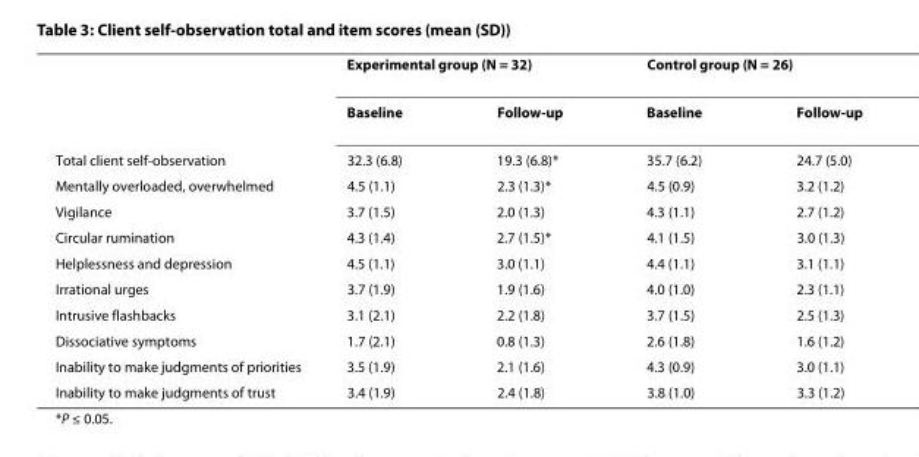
<table><thead><tr><td rowspan="2"></td><td colspan="2">Experimental group (N = 32)</td><td colspan="2">Control group (N = 26)</td></tr><tr><td>Baseline</td><td>Follow-up</td><td>Baseline</td><td>Follow-up</td></tr></thead><tbody><tr><td>Total client self-observation</td><td>32.3 (6.8)</td><td>19.3 (6.8)*</td><td>35.7 (6.2)</td><td>24.7 (5.0)</td></tr><tr><td>Mentally overloaded, overwhelmed</td><td>4.5 (1.1)</td><td>2.3 (1.3)*</td><td>4.5 (0.9)</td><td>3.2 (1.2)</td></tr><tr><td>Vigilance</td><td>3.7 (1.5)</td><td>2.0 (1.3)</td><td>4.3 (1.1)</td><td>2.7 (1.2)</td></tr><tr><td>Circular rumination</td><td>4.3 (1.4)</td><td>2.7 (1.5)*</td><td>4.1 (1.5)</td><td>3.0 (1.3)</td></tr><tr><td>Helplessness and depression</td><td>4.5 (1.1)</td><td>3.0 (1.1)</td><td>4.4 (1.1)</td><td>3.1 (1.1)</td></tr><tr><td>Irrational urges</td><td>3.7 (1.9)</td><td>1.9 (1.6)</td><td>4.0 (1.0)</td><td>2.3 (1.1)</td></tr><tr><td>Intrusive flashbacks</td><td>3.1 (2.1)</td><td>2.2 (1.8)</td><td>3.7 (1.5)</td><td>2.5 (1.3)</td></tr><tr><td>Dissociative symptoms</td><td>1.7 (2.1)</td><td>0.8 (1.3)</td><td>2.6 (1.8)</td><td>1.6 (1.2)</td></tr><tr><td>Inability to make judgments of priorities</td><td>3.5 (1.9)</td><td>2.1 (1.6)</td><td>4.3 (0.9)</td><td>3.0 (1.1)</td></tr><tr><td>Inability to make judgments of trust</td><td>3.4 (1.9)</td><td>2.4 (1.8)</td><td>3.8 (1.0)</td><td>3.3 (1.2)</td></tr></tbody></table>